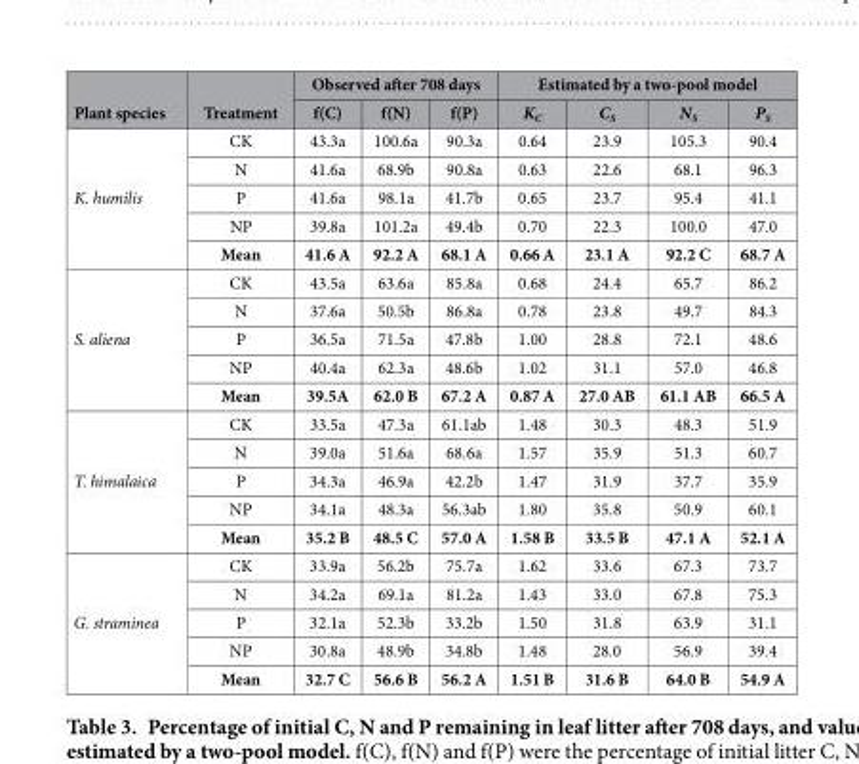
<table><thead><tr><td rowspan="2">Plant species</td><td rowspan="2">Treatment</td><td colspan="3">Observed after 708 days</td><td colspan="4">Estimated by a two-pool model</td></tr><tr><td>f(C)</td><td>f(N)</td><td>f(P)</td><td>K<sub>C</sub></td><td>C<sub>S</sub></td><td>N<sub>S</sub></td><td>P<sub>S</sub></td></tr></thead><tbody><tr><td rowspan="5">K. humilis</td><td>CK</td><td>43.3a</td><td>100.6a</td><td>90.3a</td><td>0.64</td><td>23.9</td><td>105.3</td><td>90.4</td></tr><tr><td>N</td><td>41.6a</td><td>68.9b</td><td>90.8a</td><td>0.63</td><td>22.6</td><td>68.1</td><td>96.3</td></tr><tr><td>P</td><td>41.6a</td><td>98.1a</td><td>41.7b</td><td>0.65</td><td>23.7</td><td>95.4</td><td>41.1</td></tr><tr><td>NP</td><td>39.8a</td><td>101.2a</td><td>49.4b</td><td>0.70</td><td>22.3</td><td>100.0</td><td>47.0</td></tr><tr><td>Mean</td><td>41.6 A</td><td>92.2 A</td><td>68.1 A</td><td>0.66 A</td><td>23.1 A</td><td>92.2 C</td><td>68.7 A</td></tr><tr><td rowspan="5">S. aliena</td><td>CK</td><td>43.5a</td><td>63.6a</td><td>85.8a</td><td>0.68</td><td>24.4</td><td>65.7</td><td>86.2</td></tr><tr><td>N</td><td>37.6a</td><td>50.5b</td><td>86.8a</td><td>0.78</td><td>23.8</td><td>49.7</td><td>84.3</td></tr><tr><td>P</td><td>36.5a</td><td>71.5a</td><td>47.8b</td><td>1.00</td><td>28.8</td><td>72.1</td><td>48.6</td></tr><tr><td>NP</td><td>40.4a</td><td>62.3a</td><td>48.6b</td><td>1.02</td><td>31.1</td><td>57.0</td><td>46.8</td></tr><tr><td>Mean</td><td>39.5A</td><td>62.0 B</td><td>67.2 A</td><td>0.87 A</td><td>27.0 AB</td><td>61.1 AB</td><td>66.5 A</td></tr><tr><td rowspan="5">T. himalaica</td><td>CK</td><td>33.5a</td><td>47.3a</td><td>61.1ab</td><td>1.48</td><td>30.3</td><td>48.3</td><td>51.9</td></tr><tr><td>N</td><td>39.0a</td><td>51.6a</td><td>68.6a</td><td>1.57</td><td>35.9</td><td>51.3</td><td>60.7</td></tr><tr><td>P</td><td>34.3a</td><td>46.9a</td><td>42.2b</td><td>1.47</td><td>31.9</td><td>37.7</td><td>35.9</td></tr><tr><td>NP</td><td>34.1a</td><td>48.3a</td><td>56.3ab</td><td>1.80</td><td>35.8</td><td>50.9</td><td>60.1</td></tr><tr><td>Mean</td><td>35.2 B</td><td>48.5 C</td><td>57.0 A</td><td>1.58 B</td><td>33.5 B</td><td>47.1 A</td><td>52.1 A</td></tr><tr><td rowspan="5">G. straminea</td><td>CK</td><td>33.9a</td><td>56.2b</td><td>75.7a</td><td>1.62</td><td>33.6</td><td>67.3</td><td>73.7</td></tr><tr><td>N</td><td>34.2a</td><td>69.1a</td><td>81.2a</td><td>1.43</td><td>33.0</td><td>67.8</td><td>75.3</td></tr><tr><td>P</td><td>32.1a</td><td>52.3b</td><td>33.2b</td><td>1.50</td><td>31.8</td><td>63.9</td><td>31.1</td></tr><tr><td>NP</td><td>30.8a</td><td>48.9b</td><td>34.8b</td><td>1.48</td><td>28.0</td><td>56.9</td><td>39.4</td></tr><tr><td>Mean</td><td>32.7 C</td><td>56.6 B</td><td>56.2 A</td><td>1.51 B</td><td>31.6 B</td><td>64.0 B</td><td>54.9 A</td></tr></tbody></table>